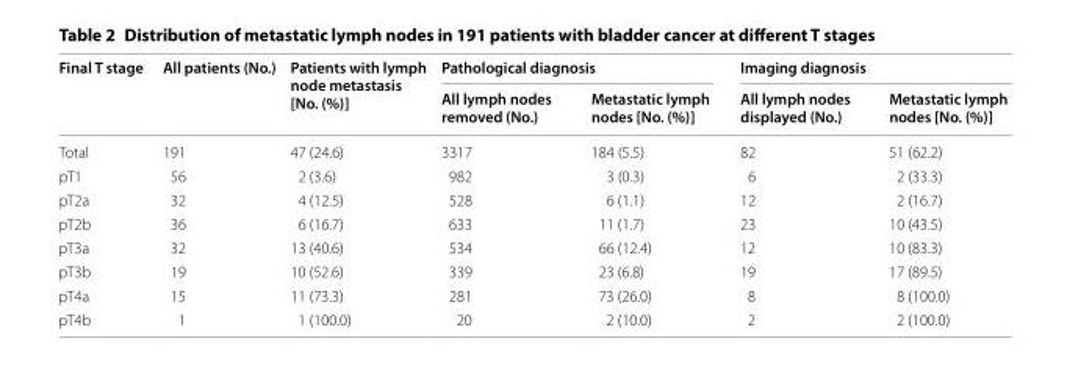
<table><thead><tr><td rowspan="2">Final T stage</td><td rowspan="2">All patients (No.)</td><td rowspan="2">Patients with lymph node metastasis [No. (%)]</td><td colspan="2">Pathological diagnosis</td><td colspan="2">Imaging diagnosis</td></tr><tr><td>All lymph nodes removed (No.)</td><td>Metastatic lymph nodes [No. (%)]</td><td>All lymph nodes displayed (No.)</td><td>Metastatic lymph nodes [No. (%)]</td></tr></thead><tbody><tr><td>Total</td><td>191</td><td>47 (24.6)</td><td>3317</td><td>184 (5.5)</td><td>82</td><td>51 (62.2)</td></tr><tr><td>pT1</td><td>56</td><td>2 (3.6)</td><td>982</td><td>3 (0.3)</td><td>6</td><td>2 (33.3)</td></tr><tr><td>pT2a</td><td>32</td><td>4 (12.5)</td><td>528</td><td>6 (1.1)</td><td>12</td><td>2 (16.7)</td></tr><tr><td>pT2b</td><td>36</td><td>6 (16.7)</td><td>633</td><td>11 (1.7)</td><td>23</td><td>10 (43.5)</td></tr><tr><td>pT3a</td><td>32</td><td>13 (40.6)</td><td>534</td><td>66 (12.4)</td><td>12</td><td>10 (83.3)</td></tr><tr><td>pT3b</td><td>19</td><td>10 (52.6)</td><td>339</td><td>23 (6.8)</td><td>19</td><td>17 (89.5)</td></tr><tr><td>pT4a</td><td>15</td><td>11 (73.3)</td><td>281</td><td>73 (26.0)</td><td>8</td><td>8 (100.0)</td></tr><tr><td>pT4b</td><td>1</td><td>1 (100.0)</td><td>20</td><td>2 (10.0)</td><td>2</td><td>2 (100.0)</td></tr></tbody></table>